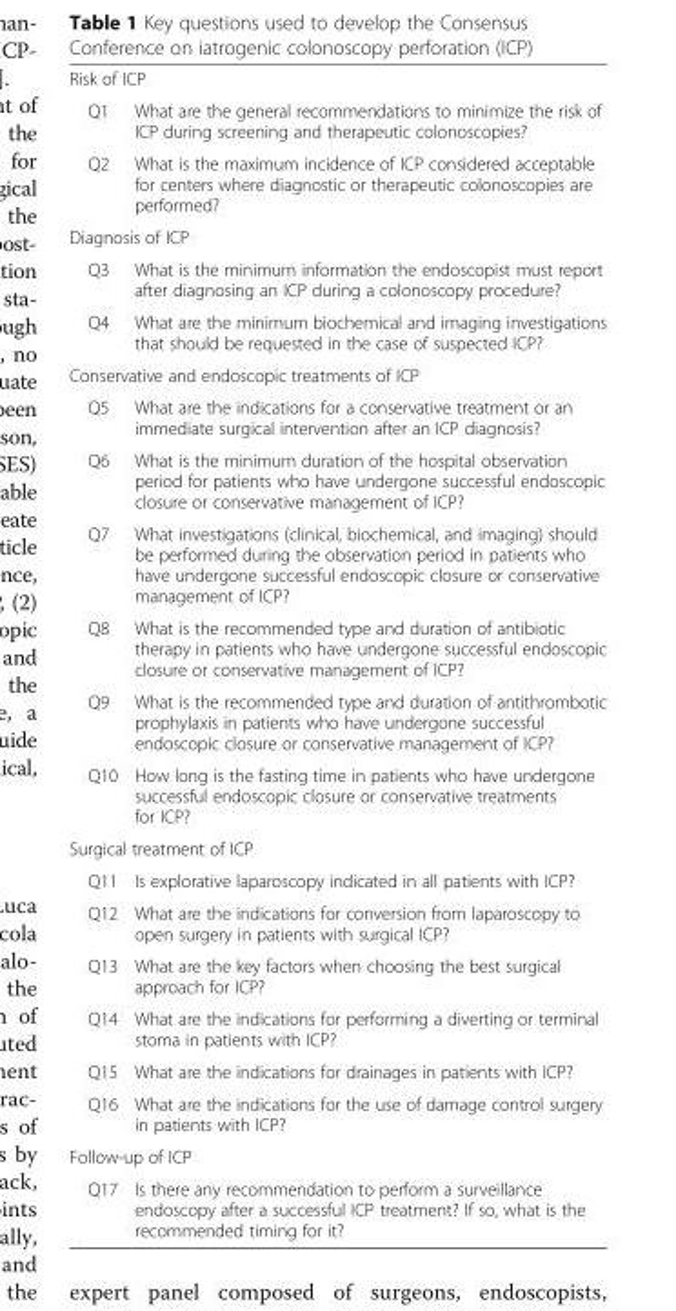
<table><tbody><tr><td colspan="2">Risk of ICP</td></tr><tr><td>Q1</td><td>What are the general recommendations to minimize the risk of ICP during screening and therapeutic colonoscopies?</td></tr><tr><td>Q2</td><td>What is the maximum incidence of ICP considered acceptable for centers where diagnostic or therapeutic colonoscopies are performed?</td></tr><tr><td colspan="2">Diagnosis of ICP</td></tr><tr><td>Q3</td><td>What is the minimum information the endoscopist must report after diagnosing an ICP during a colonoscopy procedure?</td></tr><tr><td>Q4</td><td>What are the minimum biochemical and imaging investigations that should be requested in the case of suspected ICP?</td></tr><tr><td colspan="2">Conservative and endoscopic treatments of ICP</td></tr><tr><td>Q5</td><td>What are the indications for a conservative treatment or an immediate surgical intervention after an ICP diagnosis?</td></tr><tr><td>Q6</td><td>What is the minimum duration of the hospital observation period for patients who have undergone successful endoscopic closure or conservative management of ICP?</td></tr><tr><td>Q7</td><td>What investigations (clinical, biochemical, and imaging) should be performed during the observation period in patients who have undergone successful endoscopic closure or conservative management of ICP?</td></tr><tr><td>Q8</td><td>What is the recommended type and duration of antibiotic therapy in patients who have undergone successful endoscopic closure or conservative management of ICP?</td></tr><tr><td>Q9</td><td>What is the recommended type and duration of antithrombotic prophylaxis in patients who have undergone successful endoscopic closure or conservative management of ICP?</td></tr><tr><td>Q10</td><td>How long is the fasting time in patients who have undergone successful endoscopic closure or conservative treatments for ICP?</td></tr><tr><td colspan="2">Surgical treatment of ICP</td></tr><tr><td>Q11</td><td>Is explorative laparoscopy indicated in all patients with ICP?</td></tr><tr><td>Q12</td><td>What are the indications for conversion from laparoscopy to open surgery in patients with surgical ICP?</td></tr><tr><td>Q13</td><td>What are the key factors when choosing the best surgical approach for ICP?</td></tr><tr><td>Q14</td><td>What are the indications for performing a diverting or terminal stoma in patients with ICP?</td></tr><tr><td>Q15</td><td>What are the indications for drainages in patients with ICP?</td></tr><tr><td>Q16</td><td>What are the indications for the use of damage control surgery in patients with ICP?</td></tr><tr><td colspan="2">Follow-up of ICP</td></tr><tr><td>Q17</td><td>Is there any recommendation to perform a surveillance endoscopy after a successful ICP treatment? If so, what is the recommended timing for it?</td></tr></tbody></table>